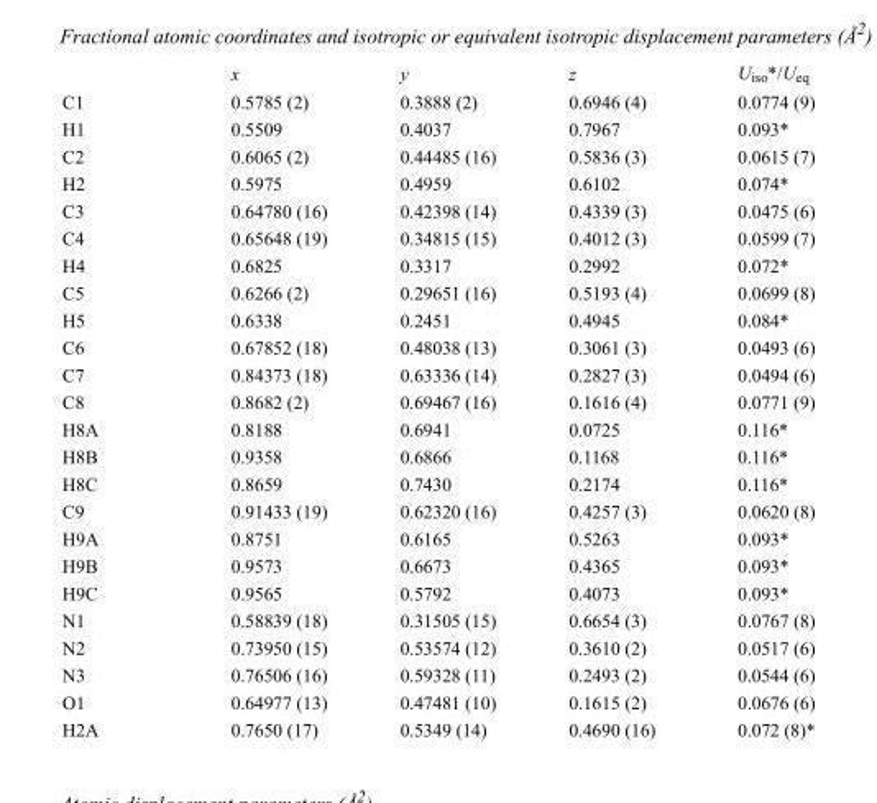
<table><thead><tr><td></td><td>x</td><td>y</td><td>z</td><td>U<sub>iso</sub>*/U<sub>eq</sub></td></tr></thead><tbody><tr><td>C1</td><td>0.5785 (2)</td><td>0.3888 (2)</td><td>0.6946 (4)</td><td>0.0774 (9)</td></tr><tr><td>H1</td><td>0.5509</td><td>0.4037</td><td>0.7967</td><td>0.093*</td></tr><tr><td>C2</td><td>0.6065 (2)</td><td>0.44485 (16)</td><td>0.5836 (3)</td><td>0.0615 (7)</td></tr><tr><td>H2</td><td>0.5975</td><td>0.4959</td><td>0.6102</td><td>0.074*</td></tr><tr><td>C3</td><td>0.64780 (16)</td><td>0.42398 (14)</td><td>0.4339 (3)</td><td>0.0475 (6)</td></tr><tr><td>C4</td><td>0.65648 (19)</td><td>0.34815 (15)</td><td>0.4012 (3)</td><td>0.0599 (7)</td></tr><tr><td>H4</td><td>0.6825</td><td>0.3317</td><td>0.2992</td><td>0.072*</td></tr><tr><td>C5</td><td>0.6266 (2)</td><td>0.29651 (16)</td><td>0.5193 (4)</td><td>0.0699 (8)</td></tr><tr><td>H5</td><td>0.6338</td><td>0.2451</td><td>0.4945</td><td>0.084*</td></tr><tr><td>C6</td><td>0.67852 (18)</td><td>0.48038 (13)</td><td>0.3061 (3)</td><td>0.0493 (6)</td></tr><tr><td>C7</td><td>0.84373 (18)</td><td>0.63336 (14)</td><td>0.2827 (3)</td><td>0.0494 (6)</td></tr><tr><td>C8</td><td>0.8682 (2)</td><td>0.69467 (16)</td><td>0.1616 (4)</td><td>0.0771 (9)</td></tr><tr><td>H8A</td><td>0.8188</td><td>0.6941</td><td>0.0725</td><td>0.116*</td></tr><tr><td>H8B</td><td>0.9358</td><td>0.6866</td><td>0.1168</td><td>0.116*</td></tr><tr><td>H8C</td><td>0.8659</td><td>0.7430</td><td>0.2174</td><td>0.116*</td></tr><tr><td>C9</td><td>0.91433 (19)</td><td>0.62320 (16)</td><td>0.4257 (3)</td><td>0.0620 (8)</td></tr><tr><td>H9A</td><td>0.8751</td><td>0.6165</td><td>0.5263</td><td>0.093*</td></tr><tr><td>H9B</td><td>0.9573</td><td>0.6673</td><td>0.4365</td><td>0.093*</td></tr><tr><td>H9C</td><td>0.9565</td><td>0.5792</td><td>0.4073</td><td>0.093*</td></tr><tr><td>N1</td><td>0.58839 (18)</td><td>0.31505 (15)</td><td>0.6654 (3)</td><td>0.0767 (8)</td></tr><tr><td>N2</td><td>0.73950 (15)</td><td>0.53574 (12)</td><td>0.3610 (2)</td><td>0.0517 (6)</td></tr><tr><td>N3</td><td>0.76506 (16)</td><td>0.59328 (11)</td><td>0.2493 (2)</td><td>0.0544 (6)</td></tr><tr><td>O1</td><td>0.64977 (13)</td><td>0.47481 (10)</td><td>0.1615 (2)</td><td>0.0676 (6)</td></tr><tr><td>H2A</td><td>0.7650 (17)</td><td>0.5349 (14)</td><td>0.4690 (16)</td><td>0.072 (8)*</td></tr></tbody></table>